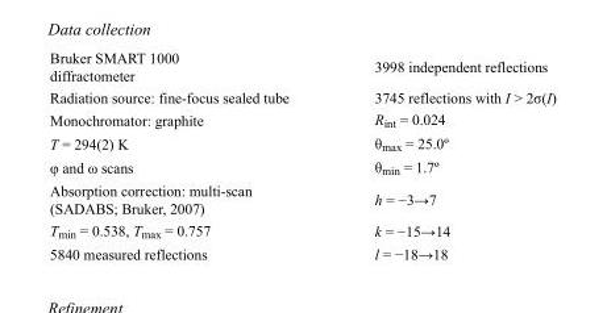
<table><tbody><tr><td>Bruker SMART 1000 diffractometer</td><td>3998 independent reflections</td></tr><tr><td>Radiation source: fine-focus sealed tube</td><td>3745 reflections with I &gt; 2σ(I)</td></tr><tr><td>Monochromator: graphite</td><td>R<sub>int</sub> = 0.024</td></tr><tr><td>T = 294(2) K</td><td>θ<sub>max</sub> = 25.0º</td></tr><tr><td>φ and ω scans</td><td>θ<sub>min</sub> = 1.7º</td></tr><tr><td>Absorption correction: multi-scan (SADABS; Bruker, 2007)</td><td>h = −3→7</td></tr><tr><td>T<sub>min</sub> = 0.538, T<sub>max</sub> = 0.757</td><td>k = −15→14</td></tr><tr><td>5840 measured reflections</td><td>l = −18→18</td></tr></tbody></table>